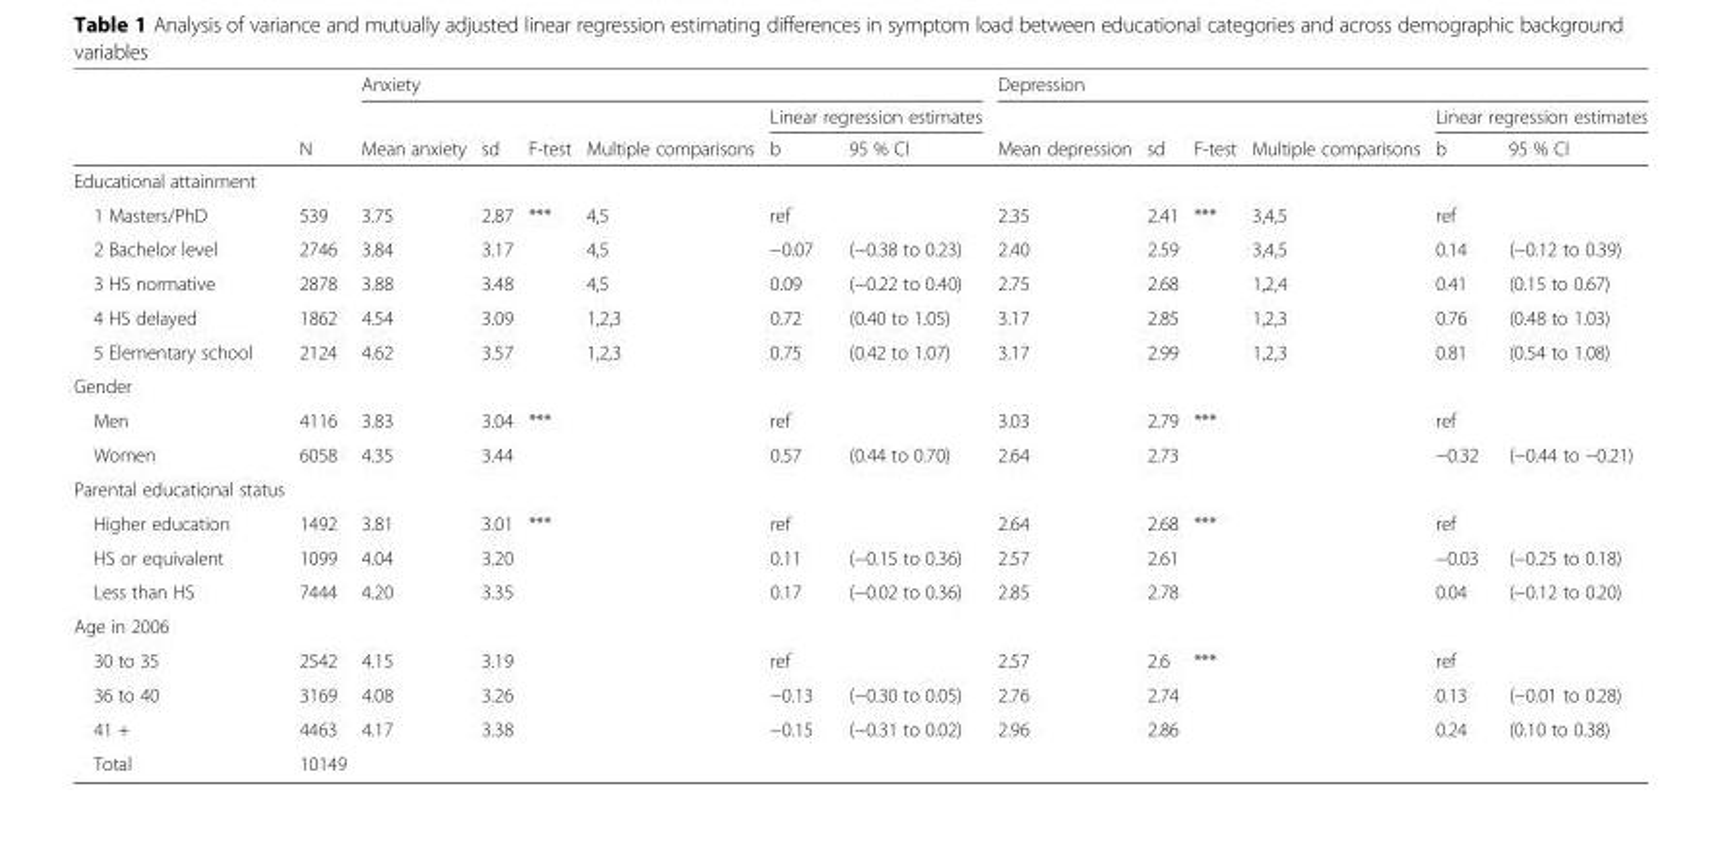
<table><thead><tr><td rowspan="3"></td><td rowspan="3">N</td><td colspan="6">Anxiety</td><td colspan="6">Depression</td></tr><tr><td rowspan="2">Mean anxiety</td><td rowspan="2">sd</td><td rowspan="2">F-test</td><td rowspan="2">Multiple comparisons</td><td colspan="2">Linear regression estimates</td><td rowspan="2">Mean depression</td><td rowspan="2">sd</td><td rowspan="2">F-test</td><td rowspan="2">Multiple comparisons</td><td colspan="2">Linear regression estimates</td></tr><tr><td>b</td><td>95 % CI</td><td>b</td><td>95 % CI</td></tr></thead><tbody><tr><td colspan="14">Educational attainment</td></tr><tr><td>1 Masters/PhD</td><td>539</td><td>3.75</td><td>2.87</td><td>***</td><td>4,5</td><td>ref</td><td></td><td>2.35</td><td>2.41</td><td>***</td><td>3,4,5</td><td>ref</td><td></td></tr><tr><td>2 Bachelor level</td><td>2746</td><td>3.84</td><td>3.17</td><td></td><td>4,5</td><td>−0.07</td><td>(−0.38 to 0.23)</td><td>2.40</td><td>2.59</td><td></td><td>3,4,5</td><td>0.14</td><td>(−0.12 to 0.39)</td></tr><tr><td>3 HS normative</td><td>2878</td><td>3.88</td><td>3.48</td><td></td><td>4,5</td><td>0.09</td><td>(−0.22 to 0.40)</td><td>2.75</td><td>2.68</td><td></td><td>1,2,4</td><td>0.41</td><td>(0.15 to 0.67)</td></tr><tr><td>4 HS delayed</td><td>1862</td><td>4.54</td><td>3.09</td><td></td><td>1,2,3</td><td>0.72</td><td>(0.40 to 1.05)</td><td>3.17</td><td>2.85</td><td></td><td>1,2,3</td><td>0.76</td><td>(0.48 to 1.03)</td></tr><tr><td>5 Elementary school</td><td>2124</td><td>4.62</td><td>3.57</td><td></td><td>1,2,3</td><td>0.75</td><td>(0.42 to 1.07)</td><td>3.17</td><td>2.99</td><td></td><td>1,2,3</td><td>0.81</td><td>(0.54 to 1.08)</td></tr><tr><td colspan="14">Gender</td></tr><tr><td>Men</td><td>4116</td><td>3.83</td><td>3.04</td><td>***</td><td></td><td>ref</td><td></td><td>3.03</td><td>2.79</td><td>***</td><td></td><td>ref</td><td></td></tr><tr><td>Women</td><td>6058</td><td>4.35</td><td>3.44</td><td></td><td></td><td>0.57</td><td>(0.44 to 0.70)</td><td>2.64</td><td>2.73</td><td></td><td></td><td>−0.32</td><td>(−0.44 to −0.21)</td></tr><tr><td colspan="14">Parental educational status</td></tr><tr><td>Higher education</td><td>1492</td><td>3.81</td><td>3.01</td><td>***</td><td></td><td>ref</td><td></td><td>2.64</td><td>2.68</td><td>***</td><td></td><td>ref</td><td></td></tr><tr><td>HS or equivalent</td><td>1099</td><td>4.04</td><td>3.20</td><td></td><td></td><td>0.11</td><td>(−0.15 to 0.36)</td><td>2.57</td><td>2.61</td><td></td><td></td><td>−0.03</td><td>(−0.25 to 0.18)</td></tr><tr><td>Less than HS</td><td>7444</td><td>4.20</td><td>3.35</td><td></td><td></td><td>0.17</td><td>(−0.02 to 0.36)</td><td>2.85</td><td>2.78</td><td></td><td></td><td>0.04</td><td>(−0.12 to 0.20)</td></tr><tr><td colspan="14">Age in 2006</td></tr><tr><td>30 to 35</td><td>2542</td><td>4.15</td><td>3.19</td><td></td><td></td><td>ref</td><td></td><td>2.57</td><td>2.6</td><td>***</td><td></td><td>ref</td><td></td></tr><tr><td>36 to 40</td><td>3169</td><td>4.08</td><td>3.26</td><td></td><td></td><td>−0.13</td><td>(−0.30 to 0.05)</td><td>2.76</td><td>2.74</td><td></td><td></td><td>0.13</td><td>(−0.01 to 0.28)</td></tr><tr><td>41 +</td><td>4463</td><td>4.17</td><td>3.38</td><td></td><td></td><td>−0.15</td><td>(−0.31 to 0.02)</td><td>2.96</td><td>2.86</td><td></td><td></td><td>0.24</td><td>(0.10 to 0.38)</td></tr><tr><td>Total</td><td>10149</td><td></td><td></td><td></td><td></td><td></td><td></td><td></td><td></td><td></td><td></td><td></td><td></td></tr></tbody></table>